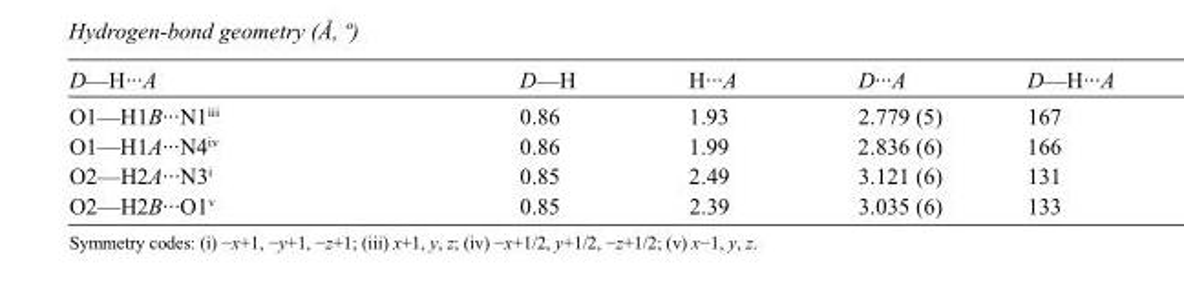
<table><tbody><tr><td>D—H···A</td><td>D—H</td><td>H···A</td><td>D···A</td><td>D—H···A</td></tr><tr><td>O1—H1B···N1<sup>iii</sup></td><td>0.86</td><td>1.93</td><td>2.779 (5)</td><td>167</td></tr><tr><td>O1—H1A···N4<sup>iv</sup></td><td>0.86</td><td>1.99</td><td>2.836 (6)</td><td>166</td></tr><tr><td>O2—H2A···N3<sup>i</sup></td><td>0.85</td><td>2.49</td><td>3.121 (6)</td><td>131</td></tr><tr><td>O2—H2B···O1<sup>v</sup></td><td>0.85</td><td>2.39</td><td>3.035 (6)</td><td>133</td></tr></tbody></table>